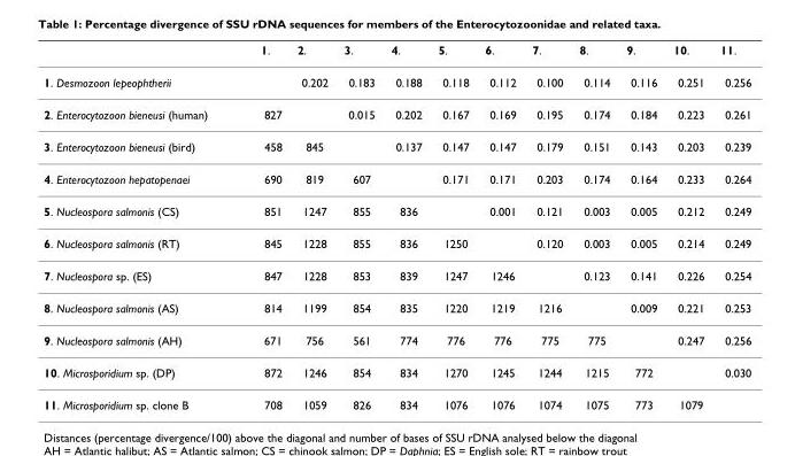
<table><thead><tr><td></td><td>1.</td><td>2.</td><td>3.</td><td>4.</td><td>5.</td><td>6.</td><td>7.</td><td>8.</td><td>9.</td><td>10.</td><td>11.</td></tr></thead><tbody><tr><td>1. Desmozoon lepeophtherii</td><td></td><td>0.202</td><td>0.183</td><td>0.188</td><td>0.118</td><td>0.112</td><td>0.100</td><td>0.114</td><td>0.116</td><td>0.251</td><td>0.256</td></tr><tr><td>2. Enterocytozoon bieneusi (human)</td><td>827</td><td></td><td>0.015</td><td>0.202</td><td>0.167</td><td>0.169</td><td>0.195</td><td>0.174</td><td>0.184</td><td>0.223</td><td>0.261</td></tr><tr><td>3. Enterocytozoon bieneusi (bird)</td><td>458</td><td>845</td><td></td><td>0.137</td><td>0.147</td><td>0.147</td><td>0.179</td><td>0.151</td><td>0.143</td><td>0.203</td><td>0.239</td></tr><tr><td>4. Enterocytozoon hepatopenaei</td><td>690</td><td>819</td><td>607</td><td></td><td>0.171</td><td>0.171</td><td>0.203</td><td>0.174</td><td>0.164</td><td>0.233</td><td>0.264</td></tr><tr><td>5. Nucleospora salmonis (CS)</td><td>851</td><td>1247</td><td>855</td><td>836</td><td></td><td>0.001</td><td>0.121</td><td>0.003</td><td>0.005</td><td>0.212</td><td>0.249</td></tr><tr><td>6. Nucleospora salmonis (RT)</td><td>845</td><td>1228</td><td>855</td><td>836</td><td>1250</td><td></td><td>0.120</td><td>0.003</td><td>0.005</td><td>0.214</td><td>0.249</td></tr><tr><td>7. Nucleospora sp. (ES)</td><td>847</td><td>1228</td><td>853</td><td>839</td><td>1247</td><td>1246</td><td></td><td>0.123</td><td>0.141</td><td>0.226</td><td>0.254</td></tr><tr><td>8. Nucleospora salmonis (AS)</td><td>814</td><td>1199</td><td>854</td><td>835</td><td>1220</td><td>1219</td><td>1216</td><td></td><td>0.009</td><td>0.221</td><td>0.253</td></tr><tr><td>9. Nucleospora salmonis (AH)</td><td>671</td><td>756</td><td>561</td><td>774</td><td>776</td><td>776</td><td>775</td><td>775</td><td></td><td>0.247</td><td>0.256</td></tr><tr><td>10. Microsporidium sp. (DP)</td><td>872</td><td>1246</td><td>854</td><td>834</td><td>1270</td><td>1245</td><td>1244</td><td>1215</td><td>772</td><td></td><td>0.030</td></tr><tr><td>11. Microsporidium sp. clone B</td><td>708</td><td>1059</td><td>826</td><td>834</td><td>1076</td><td>1076</td><td>1074</td><td>1075</td><td>773</td><td>1079</td><td></td></tr></tbody></table>